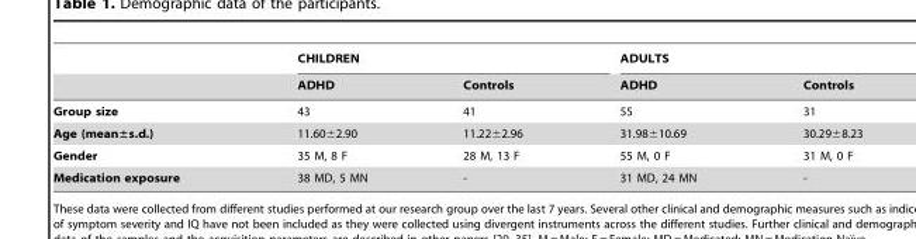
<table><thead><tr><td rowspan="2"></td><td colspan="2">CHILDREN</td><td colspan="2">ADULTS</td></tr><tr><td>ADHD</td><td>Controls</td><td>ADHD</td><td>Controls</td></tr></thead><tbody><tr><td>Group size</td><td>43</td><td>41</td><td>55</td><td>31</td></tr><tr><td>Age (mean±s.d.)</td><td>11.60±2.90</td><td>11.22±2.96</td><td>31.98±10.69</td><td>30.29±8.23</td></tr><tr><td>Gender</td><td>35 M, 8 F</td><td>28 M, 13 F</td><td>55 M, 0 F</td><td>31 M, 0 F</td></tr><tr><td>Medication exposure</td><td>38 MD, 5 MN</td><td>-</td><td>31 MD, 24 MN</td><td>-</td></tr></tbody></table>